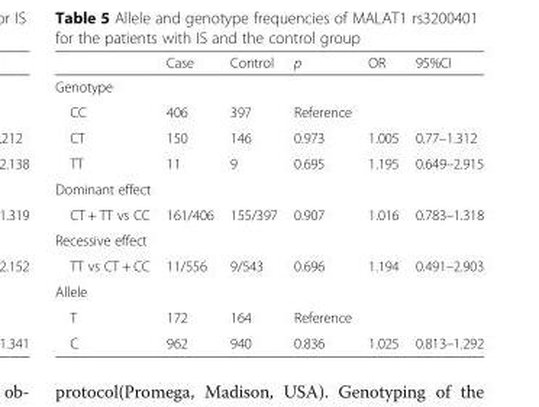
<table><thead><tr><td></td><td>Case</td><td>Control</td><td>p</td><td>OR</td><td>95%CI</td></tr></thead><tbody><tr><td colspan="6">Genotype</td></tr><tr><td>CC</td><td>406</td><td>397</td><td>Reference</td><td></td><td></td></tr><tr><td>CT</td><td>150</td><td>146</td><td>0.973</td><td>1.005</td><td>0.77–1.312</td></tr><tr><td>TT</td><td>11</td><td>9</td><td>0.695</td><td>1.195</td><td>0.649–2.915</td></tr><tr><td colspan="6">Dominant effect</td></tr><tr><td>CT + TT vs CC</td><td>161/406</td><td>155/397</td><td>0.907</td><td>1.016</td><td>0.783–1.318</td></tr><tr><td colspan="6">Recessive effect</td></tr><tr><td>TT vs CT + CC</td><td>11/556</td><td>9/543</td><td>0.696</td><td>1.194</td><td>0.491–2.903</td></tr><tr><td colspan="6">Allele</td></tr><tr><td>T</td><td>172</td><td>164</td><td>Reference</td><td></td><td></td></tr><tr><td>C</td><td>962</td><td>940</td><td>0.836</td><td>1.025</td><td>0.813–1.292</td></tr></tbody></table>